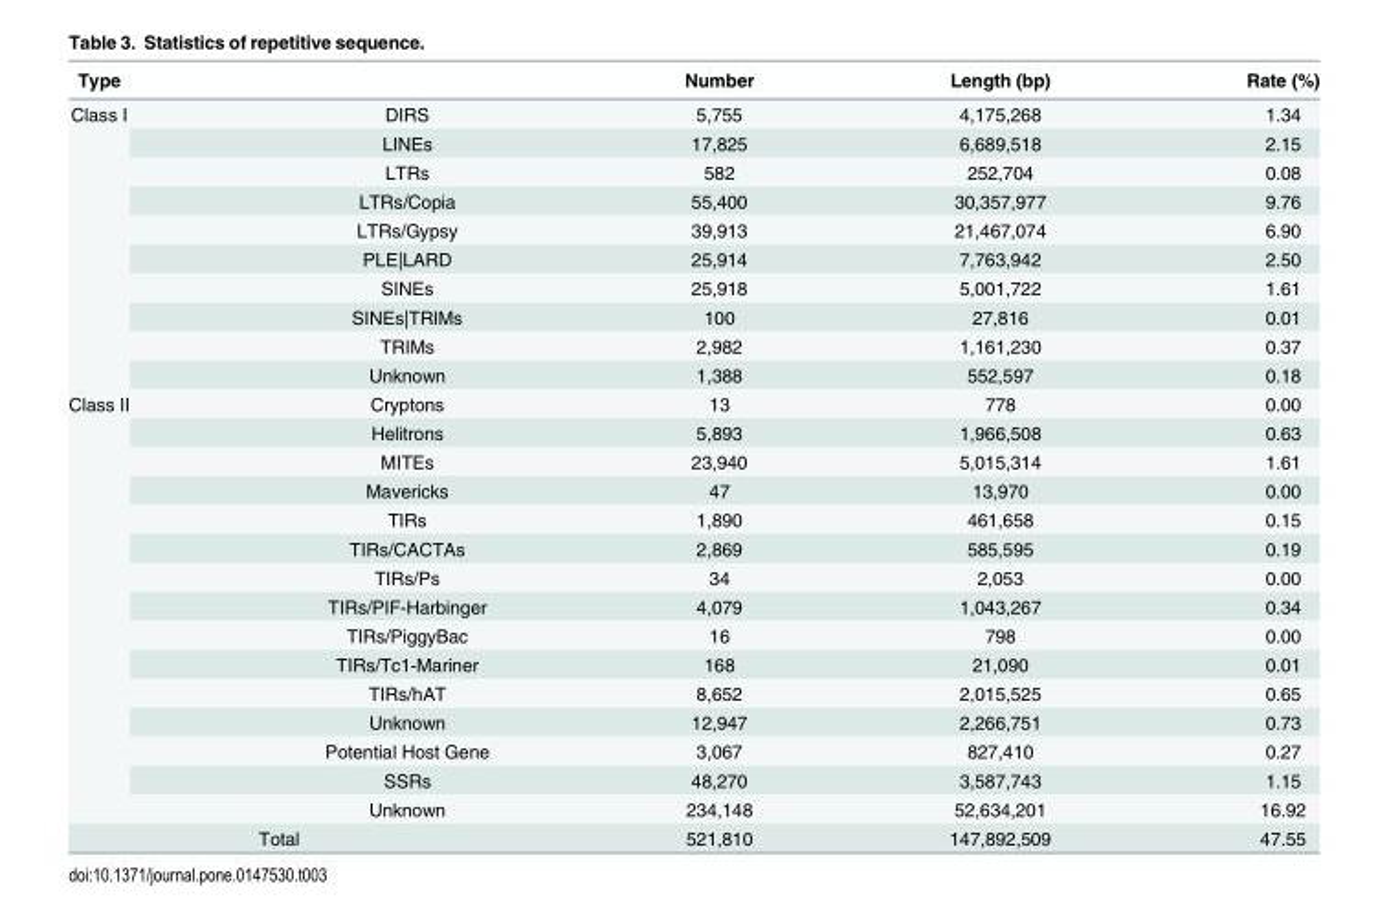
<table><thead><tr><td>Type</td><td></td><td>Number</td><td>Length (bp)</td><td>Rate (%)</td></tr></thead><tbody><tr><td rowspan="10">Class I</td><td>DIRS</td><td>5,755</td><td>4,175,268</td><td>1.34</td></tr><tr><td>LINEs</td><td>17,825</td><td>6,689,518</td><td>2.15</td></tr><tr><td>LTRs</td><td>582</td><td>252,704</td><td>0.08</td></tr><tr><td>LTRs/Copia</td><td>55,400</td><td>30,357,977</td><td>9.76</td></tr><tr><td>LTRs/Gypsy</td><td>39,913</td><td>21,467,074</td><td>6.90</td></tr><tr><td>PLE|LARD</td><td>25,914</td><td>7,763,942</td><td>2.50</td></tr><tr><td>SINEs</td><td>25,918</td><td>5,001,722</td><td>1.61</td></tr><tr><td>SINEs|TRIMs</td><td>100</td><td>27,816</td><td>0.01</td></tr><tr><td>TRIMs</td><td>2,982</td><td>1,161,230</td><td>0.37</td></tr><tr><td>Unknown</td><td>1,388</td><td>552,597</td><td>0.18</td></tr><tr><td rowspan="15">Class II</td><td>Cryptons</td><td>13</td><td>778</td><td>0.00</td></tr><tr><td>Helitrons</td><td>5,893</td><td>1,966,508</td><td>0.63</td></tr><tr><td>MITEs</td><td>23,940</td><td>5,015,314</td><td>1.61</td></tr><tr><td>Mavericks</td><td>47</td><td>13,970</td><td>0.00</td></tr><tr><td>TIRs</td><td>1,890</td><td>461,658</td><td>0.15</td></tr><tr><td>TIRs/CACTAs</td><td>2,869</td><td>585,595</td><td>0.19</td></tr><tr><td>TIRs/Ps</td><td>34</td><td>2,053</td><td>0.00</td></tr><tr><td>TIRs/PIF-Harbinger</td><td>4,079</td><td>1,043,267</td><td>0.34</td></tr><tr><td>TIRs/PiggyBac</td><td>16</td><td>798</td><td>0.00</td></tr><tr><td>TIRs/Tc1-Mariner</td><td>168</td><td>21,090</td><td>0.01</td></tr><tr><td>TIRs/hAT</td><td>8,652</td><td>2,015,525</td><td>0.65</td></tr><tr><td>Unknown</td><td>12,947</td><td>2,266,751</td><td>0.73</td></tr><tr><td>Potential Host Gene</td><td>3,067</td><td>827,410</td><td>0.27</td></tr><tr><td>SSRs</td><td>48,270</td><td>3,587,743</td><td>1.15</td></tr><tr><td>Unknown</td><td>234,148</td><td>52,634,201</td><td>16.92</td></tr><tr><td colspan="2">Total</td><td>521,810</td><td>147,892,509</td><td>47.55</td></tr></tbody></table>